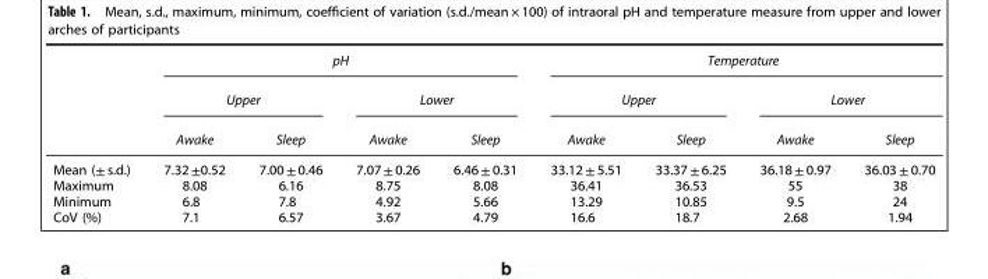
<table><thead><tr><td rowspan="3"></td><td colspan="4">pH</td><td colspan="4">Temperature</td></tr><tr><td colspan="2">Upper</td><td colspan="2">Lower</td><td colspan="2">Upper</td><td colspan="2">Lower</td></tr><tr><td>Awake</td><td>Sleep</td><td>Awake</td><td>Sleep</td><td>Awake</td><td>Sleep</td><td>Awake</td><td>Sleep</td></tr></thead><tbody><tr><td>Mean (± s.d.)</td><td>7.32 ±0.52</td><td>7.00 ± 0.46</td><td>7.07 ± 0.26</td><td>6.46 ± 0.31</td><td>33.12 ± 5.51</td><td>33.37 ± 6.25</td><td>36.18 ± 0.97</td><td>36.03 ± 0.70</td></tr><tr><td>Maximum</td><td>8.08</td><td>6.16</td><td>8.75</td><td>8.08</td><td>36.41</td><td>36.53</td><td>55</td><td>38</td></tr><tr><td>Minimum</td><td>6.8</td><td>7.8</td><td>4.92</td><td>5.66</td><td>13.29</td><td>10.85</td><td>9.5</td><td>24</td></tr><tr><td>CoV (%)</td><td>7.1</td><td>6.57</td><td>3.67</td><td>4.79</td><td>16.6</td><td>18.7</td><td>2.68</td><td>1.94</td></tr></tbody></table>